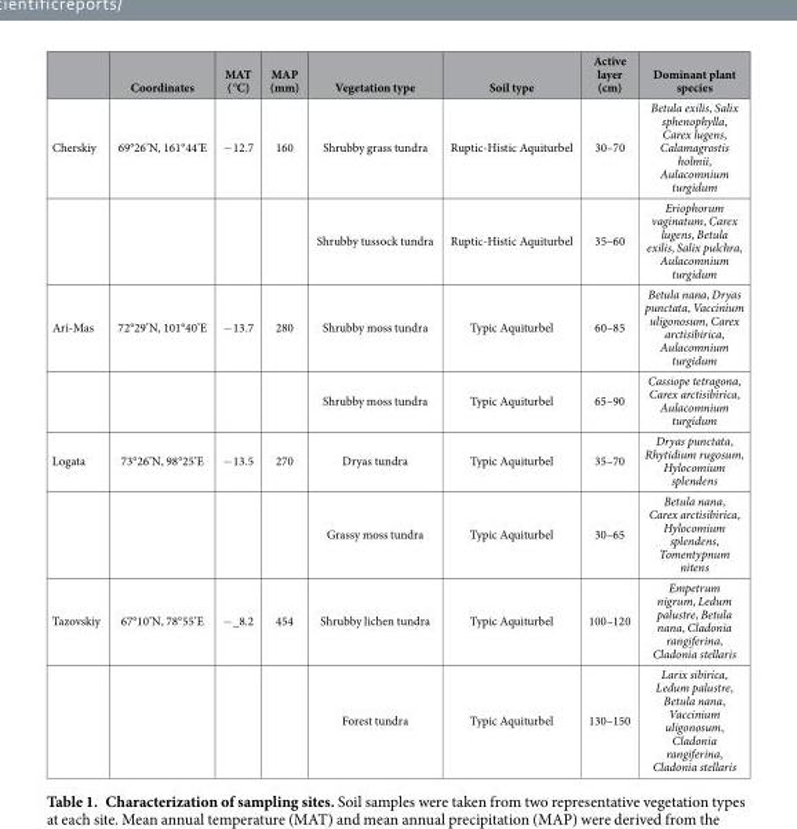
<table><thead><tr><td></td><td>Coordinates</td><td>MAT ( °C)</td><td>MAP (mm)</td><td>Vegetation type</td><td>Soil type</td><td>Active layer (cm)</td><td>Dominant plant species</td></tr></thead><tbody><tr><td rowspan="2">Cherskiy</td><td>69°26’N, 161°44’E</td><td>− 12.7</td><td>160</td><td>Shrubby grass tundra</td><td>Ruptic-Histic Aquiturbel</td><td>30–70</td><td>Betula exilis, Salix sphenophylla, Carex lugens, Calamagrostis holmii, Aulacomnium turgidum</td></tr><tr><td></td><td></td><td></td><td>Shrubby tussock tundra</td><td>Ruptic-Histic Aquiturbel</td><td>35–60</td><td>Eriophorum vaginatum, Carex lugens, Betula exilis, Salix pulchra, Aulacomnium turgidum</td></tr><tr><td rowspan="2">Ari-Mas</td><td>72°29’N, 101°40’E</td><td>− 13.7</td><td>280</td><td>Shrubby moss tundra</td><td>Typic Aquiturbel</td><td>60–85</td><td>Betula nana, Dryas punctata, Vaccinium uligonosum, Carex arctisibirica, Aulacomnium turgidum</td></tr><tr><td></td><td></td><td></td><td>Shrubby moss tundra</td><td>Typic Aquiturbel</td><td>65–90</td><td>Cassiope tetragona, Carex arctisibirica, Aulacomnium turgidum</td></tr><tr><td rowspan="2">Logata</td><td>73°26’N, 98°25’E</td><td>− 13.5</td><td>270</td><td>Dryas tundra</td><td>Typic Aquiturbel</td><td>35–70</td><td>Dryas punctata, Rhytidium rugosum, Hylocomium splendens</td></tr><tr><td></td><td></td><td></td><td>Grassy moss tundra</td><td>Typic Aquiturbel</td><td>30–65</td><td>Betula nana, Carex arctisibirica, Hylocomium splendens, Tomentypnum nitens</td></tr><tr><td rowspan="2">Tazovskiy</td><td>67°10’N, 78°55’E</td><td>− _8.2</td><td>454</td><td>Shrubby lichen tundra</td><td>Typic Aquiturbel</td><td>100–120</td><td>Empetrum nigrum, Ledum palustre, Betula nana, Cladonia rangiferina, Cladonia stellaris</td></tr><tr><td></td><td></td><td></td><td>Forest tundra</td><td>Typic Aquiturbel</td><td>130–150</td><td>Larix sibirica, Ledum palustre, Betula nana, Vaccinium uligonosum, Cladonia rangiferina, Cladonia stellaris</td></tr></tbody></table>